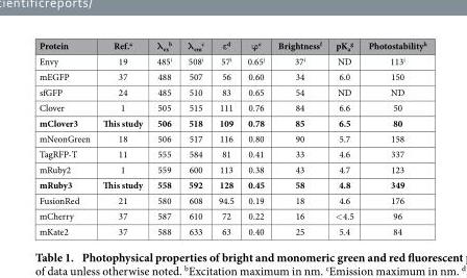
<table><thead><tr><td>Protein</td><td>Ref.<sup>a</sup></td><td>λ<sub>ex</sub> <sup>b</sup></td><td>λ<sub>em</sub> <sup>c</sup></td><td>ε<sup>d</sup></td><td>ϕ<sup>e</sup></td><td>Brightness<sup>f</sup></td><td>pK<sub>a</sub> <sup>g</sup></td><td>Photostability<sup>h</sup></td></tr></thead><tbody><tr><td>Envy</td><td>19</td><td>485<sup>i</sup></td><td>508<sup>i</sup></td><td>57<sup>i</sup></td><td>0.65<sup>i</sup></td><td>37<sup>i</sup></td><td>ND</td><td>113<sup>i</sup></td></tr><tr><td>mEGFP</td><td>37</td><td>488</td><td>507</td><td>56</td><td>0.60</td><td>34</td><td>6.0</td><td>150</td></tr><tr><td>sfGFP</td><td>24</td><td>485</td><td>510</td><td>83</td><td>0.65</td><td>54</td><td>ND</td><td>ND</td></tr><tr><td>Clover</td><td>1</td><td>505</td><td>515</td><td>111</td><td>0.76</td><td>84</td><td>6.6</td><td>50</td></tr><tr><td>mClover3</td><td>This study</td><td>506</td><td>518</td><td>109</td><td>0.78</td><td>85</td><td>6.5</td><td>80</td></tr><tr><td>mNeonGreen</td><td>18</td><td>506</td><td>517</td><td>116</td><td>0.80</td><td>90</td><td>5.7</td><td>158</td></tr><tr><td>TagRFP-T</td><td>11</td><td>555</td><td>584</td><td>81</td><td>0.41</td><td>33</td><td>4.6</td><td>337</td></tr><tr><td>mRuby2</td><td>1</td><td>559</td><td>600</td><td>113</td><td>0.38</td><td>43</td><td>4.7</td><td>123</td></tr><tr><td>mRuby3</td><td>This study</td><td>558</td><td>592</td><td>128</td><td>0.45</td><td>58</td><td>4.8</td><td>349</td></tr><tr><td>FusionRed</td><td>21</td><td>580</td><td>608</td><td>94.5</td><td>0.19</td><td>18</td><td>4.6</td><td>176</td></tr><tr><td>mCherry</td><td>37</td><td>587</td><td>610</td><td>72</td><td>0.22</td><td>16</td><td>&lt; 4.5</td><td>96</td></tr><tr><td>mKate2</td><td>37</td><td>588</td><td>633</td><td>63</td><td>0.40</td><td>25</td><td>5.4</td><td>84</td></tr></tbody></table>